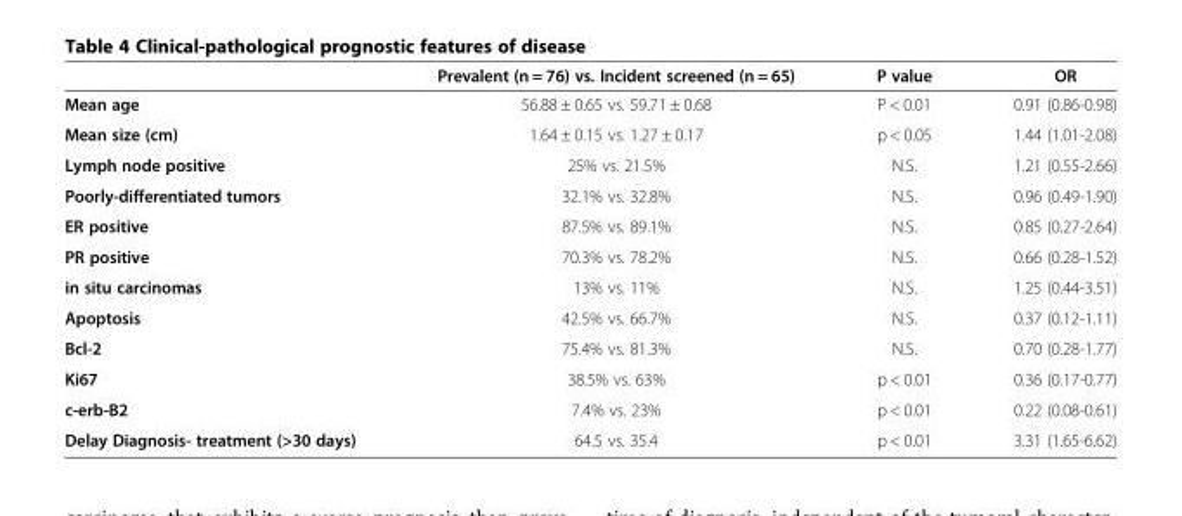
<table><thead><tr><td></td><td>Prevalent (n = 76) vs. Incident screened (n = 65)</td><td>P value</td><td>OR</td></tr></thead><tbody><tr><td>Mean age</td><td>56.88 ± 0.65 vs. 59.71 ± 0.68</td><td>P &lt; 0.01</td><td>0.91 (0.86-0.98)</td></tr><tr><td>Mean size (cm)</td><td>1.64 ± 0.15 vs. 1.27 ± 0.17</td><td>p &lt; 0.05</td><td>1.44 (1.01-2.08)</td></tr><tr><td>Lymph node positive</td><td>25% vs. 21.5%</td><td>N.S.</td><td>1.21 (0.55-2.66)</td></tr><tr><td>Poorly-differentiated tumors</td><td>32.1% vs. 32.8%</td><td>N.S.</td><td>0.96 (0.49-1.90)</td></tr><tr><td>ER positive</td><td>87.5% vs. 89.1%</td><td>N.S.</td><td>0.85 (0.27-2.64)</td></tr><tr><td>PR positive</td><td>70.3% vs. 78.2%</td><td>N.S.</td><td>0.66 (0.28-1.52)</td></tr><tr><td>in situ carcinomas</td><td>13% vs. 11%</td><td>N.S.</td><td>1.25 (0.44-3.51)</td></tr><tr><td>Apoptosis</td><td>42.5% vs. 66.7%</td><td>N.S.</td><td>0.37 (0.12-1.11)</td></tr><tr><td>Bcl-2</td><td>75.4% vs. 81.3%</td><td>N.S.</td><td>0.70 (0.28-1.77)</td></tr><tr><td>Ki67</td><td>38.5% vs. 63%</td><td>p &lt; 0.01</td><td>0.36 (0.17-0.77)</td></tr><tr><td>c-erb-B2</td><td>7.4% vs. 23%</td><td>p &lt; 0.01</td><td>0.22 (0.08-0.61)</td></tr><tr><td>Delay Diagnosis- treatment (&gt;30 days)</td><td>64.5 vs. 35.4</td><td>p &lt; 0.01</td><td>3.31 (1.65-6.62)</td></tr></tbody></table>